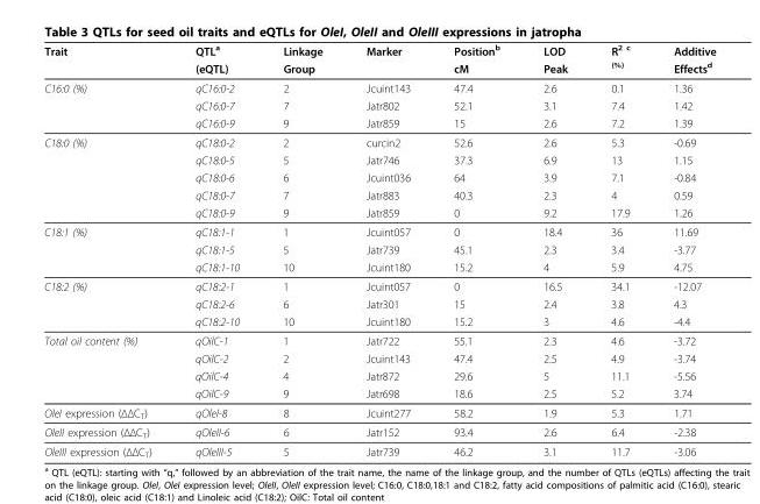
<table><thead><tr><td rowspan="2">Trait</td><td rowspan="2">QTLa (eQTL)</td><td rowspan="2">Linkage Group</td><td rowspan="2">Marker</td><td rowspan="2">Positionb cM</td><td rowspan="2">LOD Peak</td><td rowspan="2">R2 c (%)</td><td rowspan="2">Additive Effectsd</td></tr><tr></tr></thead><tbody><tr><td rowspan="3">C16:0 (%)</td><td>qC16:0-2</td><td>2</td><td>Jcuint143</td><td>47.4</td><td>2.6</td><td>0.1</td><td>1.36</td></tr><tr><td>qC16:0-7</td><td>7</td><td>Jatr802</td><td>52.1</td><td>3.1</td><td>7.4</td><td>1.42</td></tr><tr><td>qC16:0-9</td><td>9</td><td>Jatr859</td><td>15</td><td>2.6</td><td>7.2</td><td>1.39</td></tr><tr><td rowspan="5">C18:0 (%)</td><td>qC18:0-2</td><td>2</td><td>curcin2</td><td>52.6</td><td>2.6</td><td>5.3</td><td>-0.69</td></tr><tr><td>qC18:0-5</td><td>5</td><td>Jatr746</td><td>37.3</td><td>6.9</td><td>13</td><td>1.15</td></tr><tr><td>qC18:0-6</td><td>6</td><td>Jcuint036</td><td>64</td><td>3.9</td><td>7.1</td><td>-0.84</td></tr><tr><td>qC18:0-7</td><td>7</td><td>Jatr883</td><td>40.3</td><td>2.3</td><td>4</td><td>0.59</td></tr><tr><td>qC18:0-9</td><td>9</td><td>Jatr859</td><td>0</td><td>9.2</td><td>17.9</td><td>1.26</td></tr><tr><td rowspan="3">C18:1 (%)</td><td>qC18:1-1</td><td>1</td><td>Jcuint057</td><td>0</td><td>18.4</td><td>36</td><td>11.69</td></tr><tr><td>qC18:1-5</td><td>5</td><td>Jatr739</td><td>45.1</td><td>2.3</td><td>3.4</td><td>-3.77</td></tr><tr><td>qC18:1-10</td><td>10</td><td>Jcuint180</td><td>15.2</td><td>4</td><td>5.9</td><td>4.75</td></tr><tr><td rowspan="3">C18:2 (%)</td><td>qC18:2-1</td><td>1</td><td>Jcuint057</td><td>0</td><td>16.5</td><td>34.1</td><td>-12.07</td></tr><tr><td>qC18:2-6</td><td>6</td><td>Jatr301</td><td>15</td><td>2.4</td><td>3.8</td><td>4.3</td></tr><tr><td>qC18:2-10</td><td>10</td><td>Jcuint180</td><td>15.2</td><td>3</td><td>4.6</td><td>-4.4</td></tr><tr><td rowspan="4">Total oil content (%)</td><td>qOilC-1</td><td>1</td><td>Jatr722</td><td>55.1</td><td>2.3</td><td>4.6</td><td>-3.72</td></tr><tr><td>qOilC-2</td><td>2</td><td>Jcuint143</td><td>47.4</td><td>2.5</td><td>4.9</td><td>-3.74</td></tr><tr><td>qOilC-4</td><td>4</td><td>Jatr872</td><td>29.6</td><td>5</td><td>11.1</td><td>-5.56</td></tr><tr><td>qOilC-9</td><td>9</td><td>Jatr698</td><td>18.6</td><td>2.5</td><td>5.2</td><td>3.74</td></tr><tr><td>OleI expression (ΔΔC<sub>T</sub>)</td><td>qOleI-8</td><td>8</td><td>Jcuint277</td><td>58.2</td><td>1.9</td><td>5.3</td><td>1.71</td></tr><tr><td>OleII expression (ΔΔC<sub>T</sub>)</td><td>qOleII-6</td><td>6</td><td>Jatr152</td><td>93.4</td><td>2.6</td><td>6.4</td><td>-2.38</td></tr><tr><td>OleIII expression (ΔΔC<sub>T</sub>)</td><td>qOleIII-5</td><td>5</td><td>Jatr739</td><td>46.2</td><td>3.1</td><td>11.7</td><td>-3.06</td></tr></tbody></table>